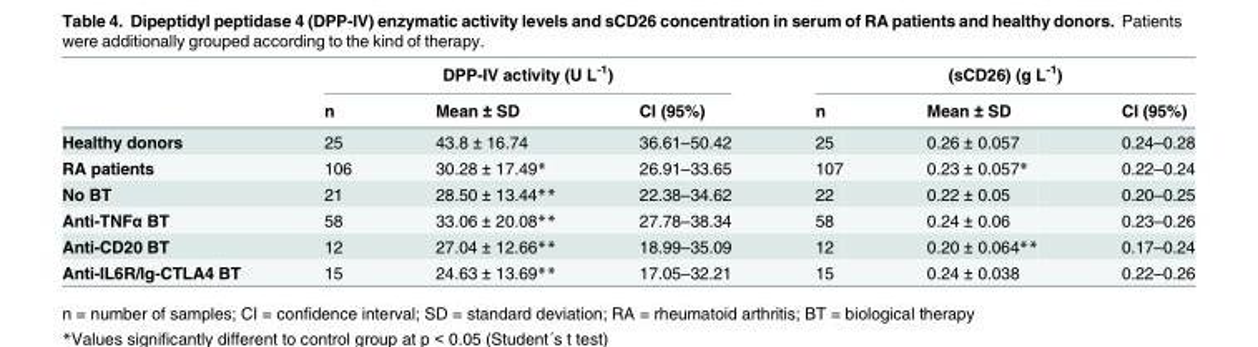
<table><thead><tr><td rowspan="2"></td><td colspan="3">DPP-IV activity (U L<sup>-1</sup>)</td><td colspan="3">(sCD26) (g L<sup>-1</sup>)</td></tr><tr><td>n</td><td>Mean ± SD</td><td>CI (95%)</td><td>n</td><td>Mean ± SD</td><td>CI (95%)</td></tr></thead><tbody><tr><td>Healthy donors</td><td>25</td><td>43.8 ± 16.74</td><td>36.61–50.42</td><td>25</td><td>0.26 ± 0.057</td><td>0.24–0.28</td></tr><tr><td>RA patients</td><td>106</td><td>30.28 ± 17.49*</td><td>26.91–33.65</td><td>107</td><td>0.23 ± 0.057*</td><td>0.22–0.24</td></tr><tr><td>No BT</td><td>21</td><td>28.50 ± 13.44**</td><td>22.38–34.62</td><td>22</td><td>0.22 ± 0.05</td><td>0.20–0.25</td></tr><tr><td>Anti-TNFα BT</td><td>58</td><td>33.06 ± 20.08**</td><td>27.78–38.34</td><td>58</td><td>0.24 ± 0.06</td><td>0.23–0.26</td></tr><tr><td>Anti-CD20 BT</td><td>12</td><td>27.04 ± 12.66**</td><td>18.99–35.09</td><td>12</td><td>0.20 ± 0.064**</td><td>0.17–0.24</td></tr><tr><td>Anti-IL6R/Ig-CTLA4 BT</td><td>15</td><td>24.63 ± 13.69**</td><td>17.05–32.21</td><td>15</td><td>0.24 ± 0.038</td><td>0.22–0.26</td></tr></tbody></table>